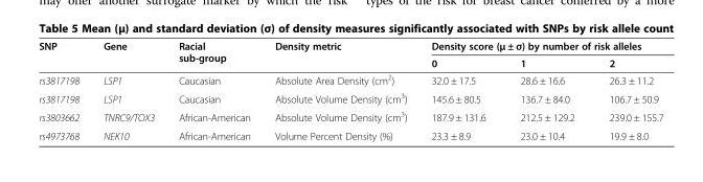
<table><thead><tr><td rowspan="2">SNP</td><td rowspan="2">Gene</td><td rowspan="2">Racial sub-group</td><td rowspan="2">Density metric</td><td colspan="3">Density score (μ ± σ) by number of risk alleles</td></tr><tr><td>0</td><td>1</td><td>2</td></tr></thead><tbody><tr><td>rs3817198</td><td>LSP1</td><td>Caucasian</td><td>Absolute Area Density (cm<sup>2</sup>)</td><td>32.0 ± 17.5</td><td>28.6 ± 16.6</td><td>26.3 ± 11.2</td></tr><tr><td>rs3817198</td><td>LSP1</td><td>Caucasian</td><td>Absolute Volume Density (cm<sup>3</sup>)</td><td>145.6 ± 80.5</td><td>136.7 ± 84.0</td><td>106.7 ± 50.9</td></tr><tr><td>rs3803662</td><td>TNRC9/TOX3</td><td>African-American</td><td>Absolute Volume Density (cm<sup>3</sup>)</td><td>187.9 ± 131.6</td><td>212.5 ± 129.2</td><td>239.0 ± 155.7</td></tr><tr><td>rs4973768</td><td>NEK10</td><td>African-American</td><td>Volume Percent Density (%)</td><td>23.3 ± 8.9</td><td>23.0 ± 10.4</td><td>19.9 ± 8.0</td></tr></tbody></table>